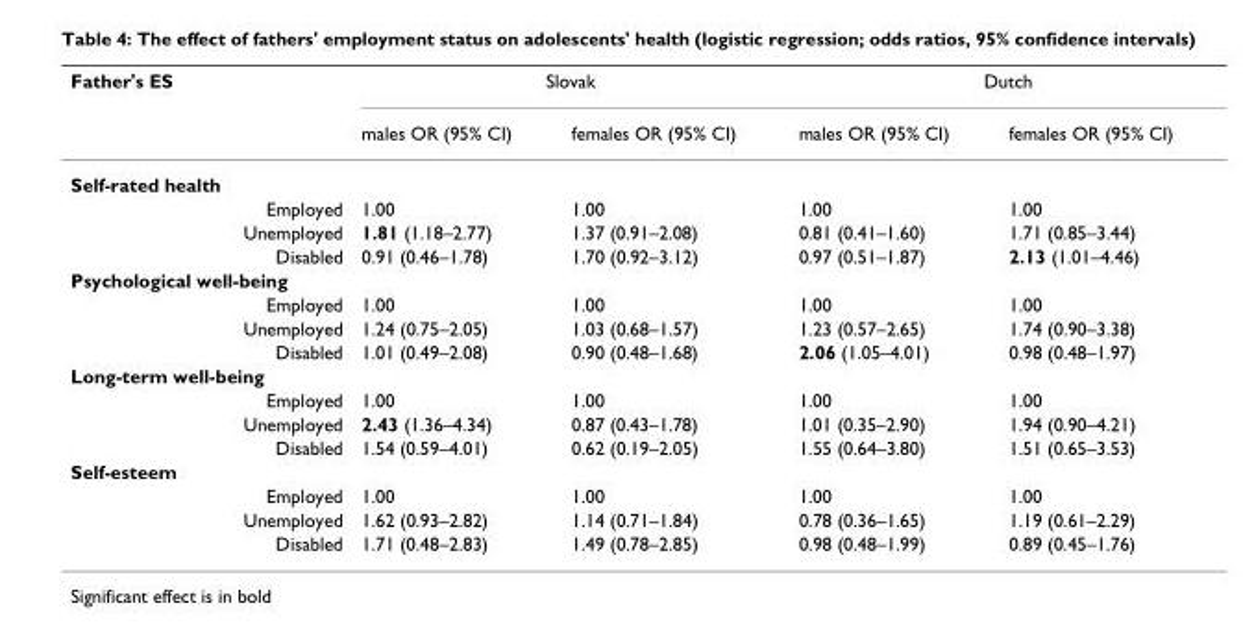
<table><thead><tr><td rowspan="2">Father&#x27;s ES</td><td colspan="2">Slovak</td><td colspan="2">Dutch</td></tr><tr><td>males OR (95% CI)</td><td>females OR (95% CI)</td><td>males OR (95% CI)</td><td>females OR (95% CI)</td></tr></thead><tbody><tr><td colspan="5">Self-rated health</td></tr><tr><td>Employed</td><td>1.00</td><td>1.00</td><td>1.00</td><td>1.00</td></tr><tr><td>Unemployed</td><td>1.81 (1.18–2.77)</td><td>1.37 (0.91–2.08)</td><td>0.81 (0.41–1.60)</td><td>1.71 (0.85–3.44)</td></tr><tr><td>Disabled</td><td>0.91 (0.46–1.78)</td><td>1.70 (0.92–3.12)</td><td>0.97 (0.51–1.87)</td><td>2.13 (1.01–4.46)</td></tr><tr><td colspan="5">Psychological well-being</td></tr><tr><td>Employed</td><td>1.00</td><td>1.00</td><td>1.00</td><td>1.00</td></tr><tr><td>Unemployed</td><td>1.24 (0.75–2.05)</td><td>1.03 (0.68–1.57)</td><td>1.23 (0.57–2.65)</td><td>1.74 (0.90–3.38)</td></tr><tr><td>Disabled</td><td>1.01 (0.49–2.08)</td><td>0.90 (0.48–1.68)</td><td>2.06 (1.05–4.01)</td><td>0.98 (0.48–1.97)</td></tr><tr><td colspan="5">Long-term well-being</td></tr><tr><td>Employed</td><td>1.00</td><td>1.00</td><td>1.00</td><td>1.00</td></tr><tr><td>Unemployed</td><td>2.43 (1.36–4.34)</td><td>0.87 (0.43–1.78)</td><td>1.01 (0.35–2.90)</td><td>1.94 (0.90–4.21)</td></tr><tr><td>Disabled</td><td>1.54 (0.59–4.01)</td><td>0.62 (0.19–2.05)</td><td>1.55 (0.64–3.80)</td><td>1.51 (0.65–3.53)</td></tr><tr><td colspan="5">Self-esteem</td></tr><tr><td>Employed</td><td>1.00</td><td>1.00</td><td>1.00</td><td>1.00</td></tr><tr><td>Unemployed</td><td>1.62 (0.93–2.82)</td><td>1.14 (0.71–1.84)</td><td>0.78 (0.36–1.65)</td><td>1.19 (0.61–2.29)</td></tr><tr><td>Disabled</td><td>1.71 (0.48–2.83)</td><td>1.49 (0.78–2.85)</td><td>0.98 (0.48–1.99)</td><td>0.89 (0.45–1.76)</td></tr></tbody></table>